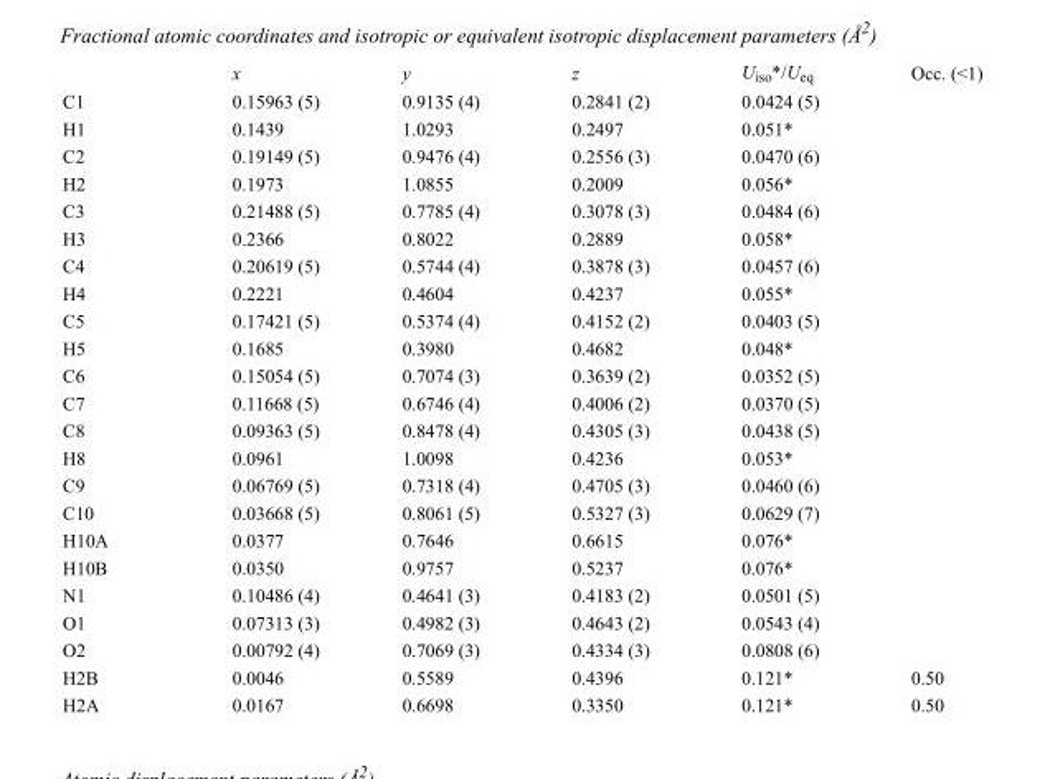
<table><thead><tr><td></td><td>x</td><td>y</td><td>z</td><td>U<sub>iso</sub>*/U<sub>eq</sub></td><td>Occ. (&lt;1)</td></tr></thead><tbody><tr><td>C1</td><td>0.15963 (5)</td><td>0.9135 (4)</td><td>0.2841 (2)</td><td>0.0424 (5)</td><td></td></tr><tr><td>H1</td><td>0.1439</td><td>1.0293</td><td>0.2497</td><td>0.051*</td><td></td></tr><tr><td>C2</td><td>0.19149 (5)</td><td>0.9476 (4)</td><td>0.2556 (3)</td><td>0.0470 (6)</td><td></td></tr><tr><td>H2</td><td>0.1973</td><td>1.0855</td><td>0.2009</td><td>0.056*</td><td></td></tr><tr><td>C3</td><td>0.21488 (5)</td><td>0.7785 (4)</td><td>0.3078 (3)</td><td>0.0484 (6)</td><td></td></tr><tr><td>H3</td><td>0.2366</td><td>0.8022</td><td>0.2889</td><td>0.058*</td><td></td></tr><tr><td>C4</td><td>0.20619 (5)</td><td>0.5744 (4)</td><td>0.3878 (3)</td><td>0.0457 (6)</td><td></td></tr><tr><td>H4</td><td>0.2221</td><td>0.4604</td><td>0.4237</td><td>0.055*</td><td></td></tr><tr><td>C5</td><td>0.17421 (5)</td><td>0.5374 (4)</td><td>0.4152 (2)</td><td>0.0403 (5)</td><td></td></tr><tr><td>H5</td><td>0.1685</td><td>0.3980</td><td>0.4682</td><td>0.048*</td><td></td></tr><tr><td>C6</td><td>0.15054 (5)</td><td>0.7074 (3)</td><td>0.3639 (2)</td><td>0.0352 (5)</td><td></td></tr><tr><td>C7</td><td>0.11668 (5)</td><td>0.6746 (4)</td><td>0.4006 (2)</td><td>0.0370 (5)</td><td></td></tr><tr><td>C8</td><td>0.09363 (5)</td><td>0.8478 (4)</td><td>0.4305 (3)</td><td>0.0438 (5)</td><td></td></tr><tr><td>H8</td><td>0.0961</td><td>1.0098</td><td>0.4236</td><td>0.053*</td><td></td></tr><tr><td>C9</td><td>0.06769 (5)</td><td>0.7318 (4)</td><td>0.4705 (3)</td><td>0.0460 (6)</td><td></td></tr><tr><td>C10</td><td>0.03668 (5)</td><td>0.8061 (5)</td><td>0.5327 (3)</td><td>0.0629 (7)</td><td></td></tr><tr><td>H10A</td><td>0.0377</td><td>0.7646</td><td>0.6615</td><td>0.076*</td><td></td></tr><tr><td>H10B</td><td>0.0350</td><td>0.9757</td><td>0.5237</td><td>0.076*</td><td></td></tr><tr><td>N1</td><td>0.10486 (4)</td><td>0.4641 (3)</td><td>0.4183 (2)</td><td>0.0501 (5)</td><td></td></tr><tr><td>O1</td><td>0.07313 (3)</td><td>0.4982 (3)</td><td>0.4643 (2)</td><td>0.0543 (4)</td><td></td></tr><tr><td>O2</td><td>0.00792 (4)</td><td>0.7069 (3)</td><td>0.4334 (3)</td><td>0.0808 (6)</td><td></td></tr><tr><td>H2B</td><td>0.0046</td><td>0.5589</td><td>0.4396</td><td>0.121*</td><td>0.50</td></tr><tr><td>H2A</td><td>0.0167</td><td>0.6698</td><td>0.3350</td><td>0.121*</td><td>0.50</td></tr></tbody></table>